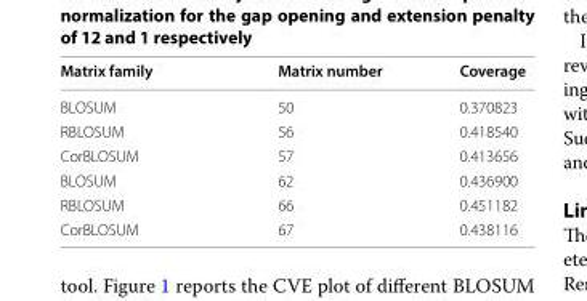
<table><thead><tr><td>Matrix family</td><td>Matrix number</td><td>Coverage</td></tr></thead><tbody><tr><td>BLOSUM</td><td>50</td><td>0.370823</td></tr><tr><td>RBLOSUM</td><td>56</td><td>0.418540</td></tr><tr><td>CorBLOSUM</td><td>57</td><td>0.413656</td></tr><tr><td>BLOSUM</td><td>62</td><td>0.436900</td></tr><tr><td>RBLOSUM</td><td>66</td><td>0.451182</td></tr><tr><td>CorBLOSUM</td><td>67</td><td>0.438116</td></tr></tbody></table>